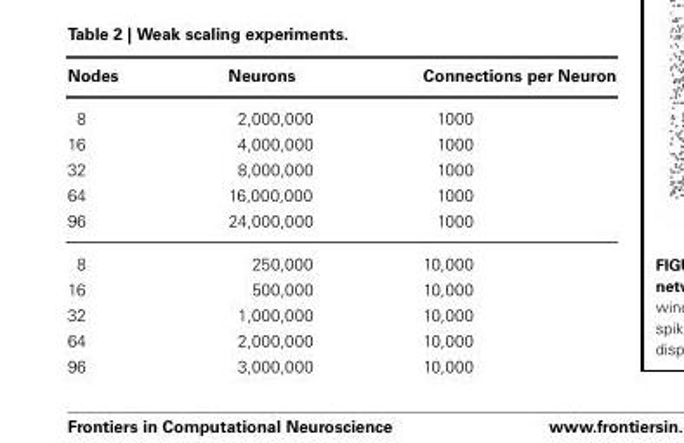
<table><thead><tr><td>Nodes</td><td>Neurons</td><td>Connections per Neuron</td></tr></thead><tbody><tr><td>8</td><td>2,000,000</td><td>1000</td></tr><tr><td>16</td><td>4,000,000</td><td>1000</td></tr><tr><td>32</td><td>8,000,000</td><td>1000</td></tr><tr><td>64</td><td>16,000,000</td><td>1000</td></tr><tr><td>96</td><td>24,000,000</td><td>1000</td></tr><tr><td>8</td><td>250,000</td><td>10,000</td></tr><tr><td>16</td><td>500,000</td><td>10,000</td></tr><tr><td>32</td><td>1,000,000</td><td>10,000</td></tr><tr><td>64</td><td>2,000,000</td><td>10,000</td></tr><tr><td>96</td><td>3,000,000</td><td>10,000</td></tr></tbody></table>